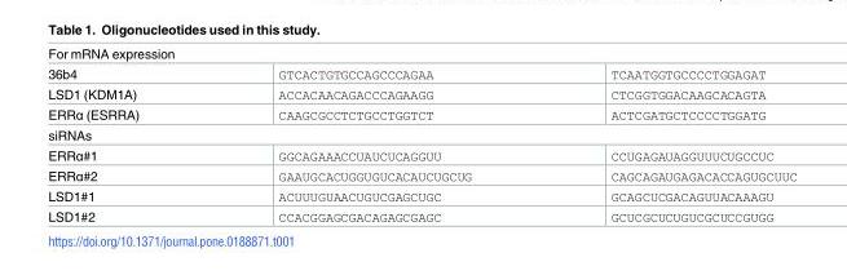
<table><tbody><tr><td colspan="3">For mRNA expression</td></tr><tr><td>36b4</td><td>GTCACTGTGCCAGCCCAGAA</td><td>TCAATGGTGCCCCTGGAGAT</td></tr><tr><td>LSD1 (KDM1A)</td><td>ACCACAACAGACCCAGAAGG</td><td>CTCGGTGGACAAGCACAGTA</td></tr><tr><td>ERRα (ESRRA)</td><td>CAAGCGCCTCTGCCTGGTCT</td><td>ACTCGATGCTCCCCTGGATG</td></tr><tr><td colspan="3">siRNAs</td></tr><tr><td>ERRα#1</td><td>GGCAGAAACCUAUCUCAGGUU</td><td>CCUGAGAUAGGUUUCUGCCUC</td></tr><tr><td>ERRα#2</td><td>GAAUGCACUGGUGUCACAUCUGCUG</td><td>CAGCAGAUGAGACACCAGUGCUUC</td></tr><tr><td>LSD1#1</td><td>ACUUUGUAACUGUCGAGCUGC</td><td>GCAGCUCGACAGUUACAAAGU</td></tr><tr><td>LSD1#2</td><td>CCACGGAGCGACAGAGCGAGC</td><td>GCUCGCUCUGUCGCUCCGUGG</td></tr></tbody></table>